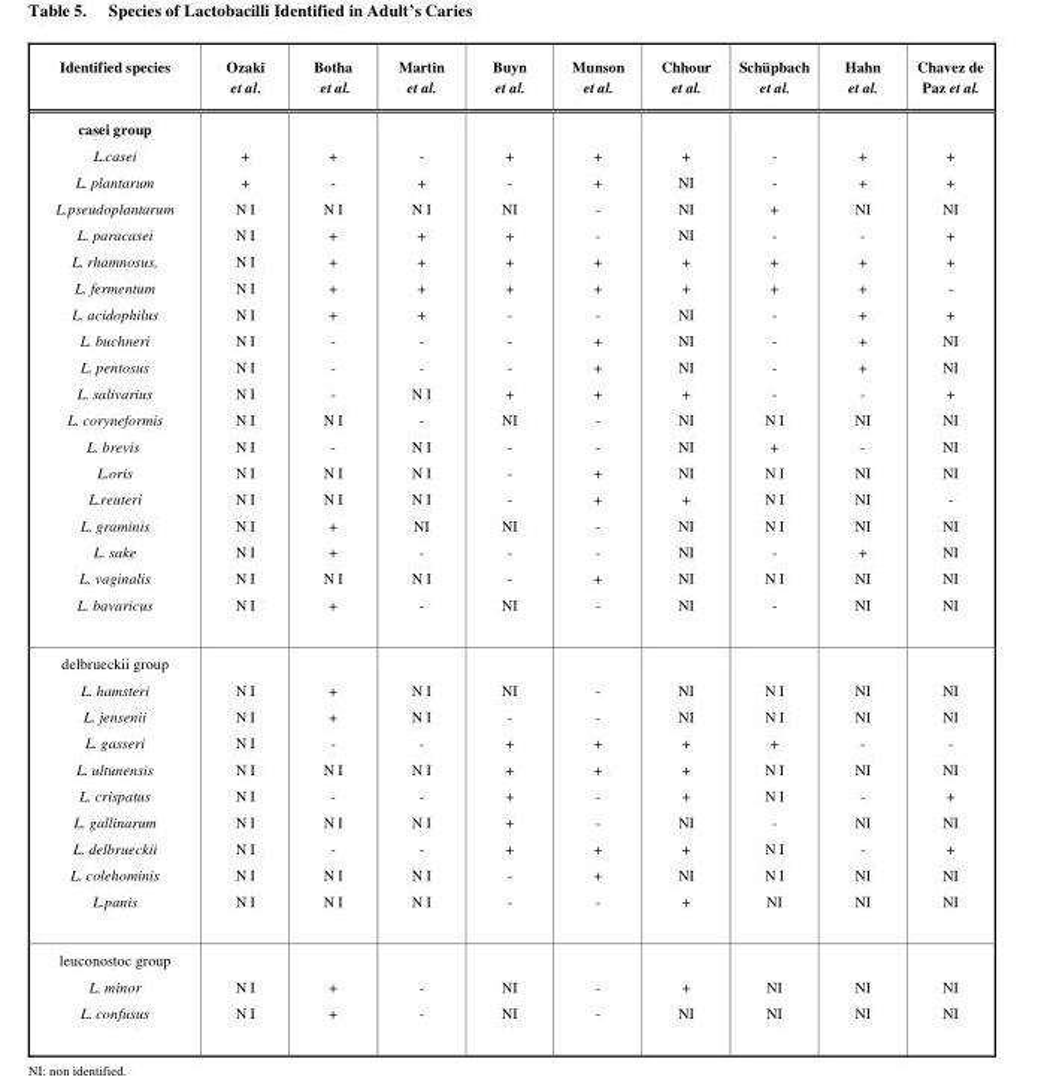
<table><thead><tr><td>Identified species</td><td>Ozaki et al.</td><td>Botha et al.</td><td>Martin et al.</td><td>Buyn et al.</td><td>Munson et al.</td><td>Chhour et al.</td><td>Schüpbach et al.</td><td>Hahn et al.</td><td>Chavez de Paz et al.</td></tr></thead><tbody><tr><td>casei group L.casei L. plantarum L.pseudoplantarum L. paracasei L. rhamnosus, L. fermentum L. acidophilus L. buchneri L. pentosus L. salivarius L. coryneformis L. brevis L.oris L.reuteri L. graminis L. sake L. vaginalis L. bavaricus</td><td>+ + N I N I N I N I N I N I N I N I N I N I N I N I N I N I N I N I</td><td>+ - N I + + + + - - - N I - N I N I + + N I +</td><td>- + N I + + + + - - N I - N I N I N I NI - N I -</td><td>+ - NI + + + - - - + NI - - - NI - - NI</td><td>+ + - - + + - + + + - - + + - - + -</td><td>+ NI NI NI + + NI NI NI + NI NI NI + NI NI NI NI</td><td>- - + - + + - - - - N I + N I N I N I - N I -</td><td>+ + NI - + + + + + - NI - NI NI NI + NI NI</td><td>+ + NI + + - + NI NI + NI NI NI - NI NI NI NI</td></tr><tr><td>delbrueckii group L. hamsteri L. jensenii L. gasseri L. ultunensis L. crispatus L. gallinarum L. delbrueckii L. colehominis L.panis</td><td>N I N I N I N I N I N I N I N I N I</td><td>+ + - N I - N I - N I N I</td><td>N I N I - N I - N I - N I N I</td><td>NI - + + + + + - -</td><td>- - + + - - + + -</td><td>NI NI + + + NI + NI +</td><td>N I N I + N I N I - N I N I NI</td><td>NI NI - NI - NI - NI NI</td><td>NI NI - NI + NI + NI NI</td></tr><tr><td>leuconostoc group L. minor L. confusus</td><td>N I N I</td><td>+ +</td><td>- -</td><td>NI NI</td><td>- -</td><td>+ NI</td><td>NI NI</td><td>NI NI</td><td>NI NI</td></tr></tbody></table>